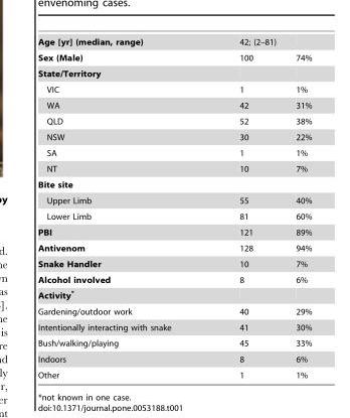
<table><tbody><tr><td>Age [yr] (median, range)</td><td>42; (2–81)</td><td></td></tr><tr><td>Sex (Male)</td><td>100</td><td>74%</td></tr><tr><td colspan="3">State/Territory</td></tr><tr><td>VIC</td><td>1</td><td>1%</td></tr><tr><td>WA</td><td>42</td><td>31%</td></tr><tr><td>QLD</td><td>52</td><td>38%</td></tr><tr><td>NSW</td><td>30</td><td>22%</td></tr><tr><td>SA</td><td>1</td><td>1%</td></tr><tr><td>NT</td><td>10</td><td>7%</td></tr><tr><td colspan="3">Bite site</td></tr><tr><td>Upper Limb</td><td>55</td><td>40%</td></tr><tr><td>Lower Limb</td><td>81</td><td>60%</td></tr><tr><td>PBI</td><td>121</td><td>89%</td></tr><tr><td>Antivenom</td><td>128</td><td>94%</td></tr><tr><td>Snake Handler</td><td>10</td><td>7%</td></tr><tr><td>Alcohol involved</td><td>8</td><td>6%</td></tr><tr><td colspan="3">Activity*</td></tr><tr><td>Gardening/outdoor work</td><td>40</td><td>29%</td></tr><tr><td>Intentionally interacting with snake</td><td>41</td><td>30%</td></tr><tr><td>Bush/walking/playing</td><td>45</td><td>33%</td></tr><tr><td>Indoors</td><td>8</td><td>6%</td></tr><tr><td>Other</td><td>1</td><td>1%</td></tr></tbody></table>